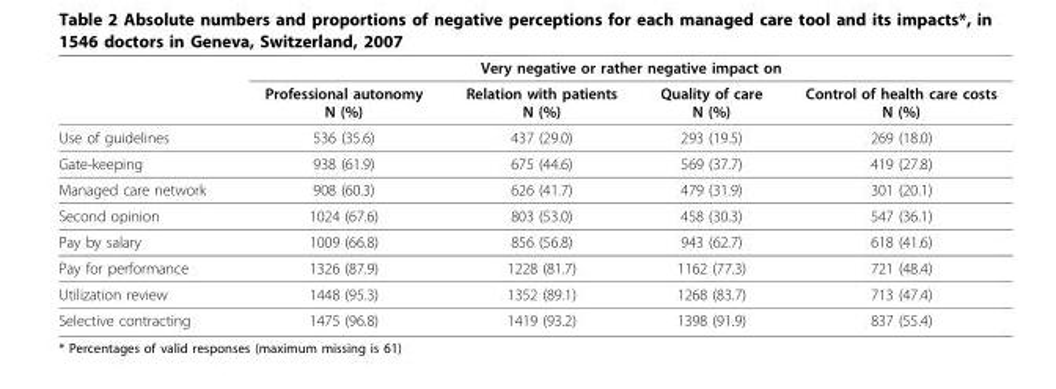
<table><thead><tr><td rowspan="2"></td><td colspan="4">Very negative or rather negative impact on</td></tr><tr><td>Professional autonomy N (%)</td><td>Relation with patients N (%)</td><td>Quality of care N (%)</td><td>Control of health care costs N (%)</td></tr></thead><tbody><tr><td>Use of guidelines</td><td>536 (35.6)</td><td>437 (29.0)</td><td>293 (19.5)</td><td>269 (18.0)</td></tr><tr><td>Gate-keeping</td><td>938 (61.9)</td><td>675 (44.6)</td><td>569 (37.7)</td><td>419 (27.8)</td></tr><tr><td>Managed care network</td><td>908 (60.3)</td><td>626 (41.7)</td><td>479 (31.9)</td><td>301 (20.1)</td></tr><tr><td>Second opinion</td><td>1024 (67.6)</td><td>803 (53.0)</td><td>458 (30.3)</td><td>547 (36.1)</td></tr><tr><td>Pay by salary</td><td>1009 (66.8)</td><td>856 (56.8)</td><td>943 (62.7)</td><td>618 (41.6)</td></tr><tr><td>Pay for performance</td><td>1326 (87.9)</td><td>1228 (81.7)</td><td>1162 (77.3)</td><td>721 (48.4)</td></tr><tr><td>Utilization review</td><td>1448 (95.3)</td><td>1352 (89.1)</td><td>1268 (83.7)</td><td>713 (47.4)</td></tr><tr><td>Selective contracting</td><td>1475 (96.8)</td><td>1419 (93.2)</td><td>1398 (91.9)</td><td>837 (55.4)</td></tr></tbody></table>